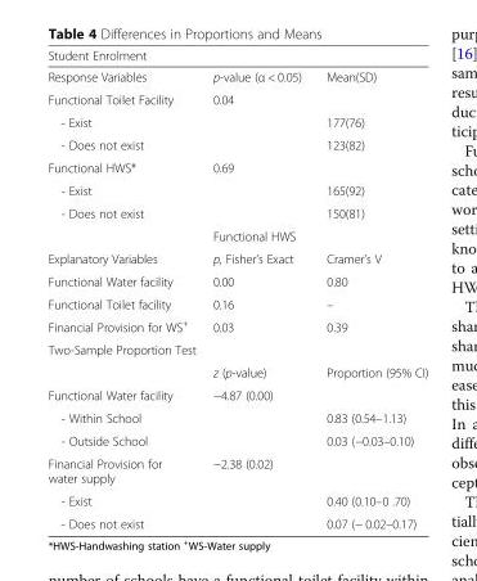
<table><thead><tr><td colspan="3">Student Enrolment</td></tr><tr><td>Response Variables</td><td>p-value (α &lt; 0.05)</td><td>Mean(SD)</td></tr></thead><tbody><tr><td>Functional Toilet Facility</td><td>0.04</td><td></td></tr><tr><td>- Exist</td><td></td><td>177(76)</td></tr><tr><td>- Does not exist</td><td></td><td>123(82)</td></tr><tr><td>Functional HWS*</td><td>0.69</td><td></td></tr><tr><td>- Exist</td><td></td><td>165(92)</td></tr><tr><td rowspan="2">- Does not exist</td><td></td><td>150(81)</td></tr><tr><td>Functional HWS</td><td></td></tr><tr><td>Explanatory Variables</td><td>p, Fisher’s Exact</td><td>Cramer’s V</td></tr><tr><td>Functional Water facility</td><td>0.00</td><td>0.80</td></tr><tr><td>Functional Toilet facility</td><td>0.16</td><td>–</td></tr><tr><td>Financial Provision for WS<sup>+</sup></td><td>0.03</td><td>0.39</td></tr><tr><td colspan="3">Two-Sample Proportion Test</td></tr><tr><td></td><td>z (p-value)</td><td>Proportion (95% CI)</td></tr><tr><td>Functional Water facility</td><td>−4.87 (0.00)</td><td></td></tr><tr><td>- Within School</td><td></td><td>0.83 (0.54–1.13)</td></tr><tr><td>- Outside School</td><td></td><td>0.03 (−0.03–0.10)</td></tr><tr><td>Financial Provision for water supply</td><td>−2.38 (0.02)</td><td></td></tr><tr><td>- Exist</td><td></td><td>0.40 (0.10–0 .70)</td></tr><tr><td>- Does not exist</td><td></td><td>0.07 (− 0.02–0.17)</td></tr></tbody></table>